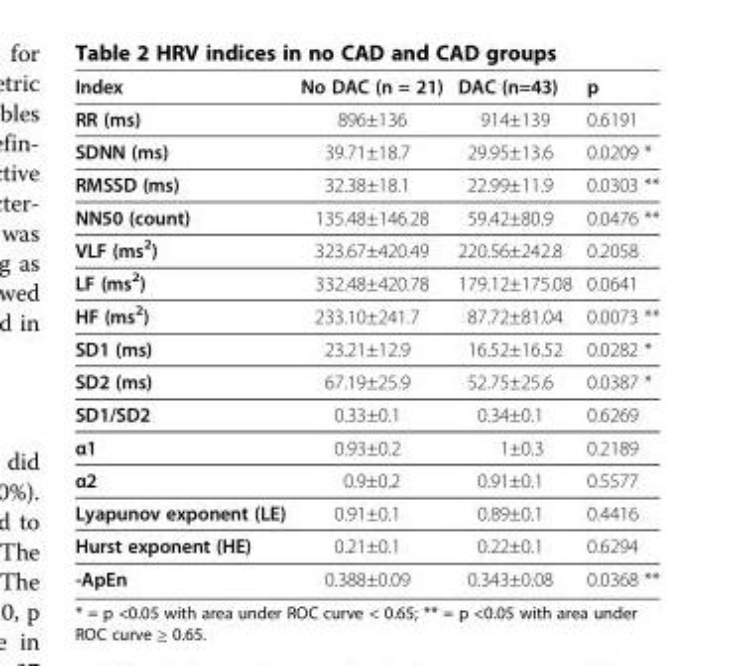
<table><thead><tr><td>Index</td><td>No DAC (n = 21)</td><td>DAC (n=43)</td><td>p</td></tr></thead><tbody><tr><td>RR (ms)</td><td>896±136</td><td>914±139</td><td>0.6191</td></tr><tr><td>SDNN (ms)</td><td>39.71±18.7</td><td>29.95±13.6</td><td>0.0209 *</td></tr><tr><td>RMSSD (ms)</td><td>32.38±18.1</td><td>22.99±11.9</td><td>0.0303 **</td></tr><tr><td>NN50 (count)</td><td>135.48±146.28</td><td>59.42±80.9</td><td>0.0476 **</td></tr><tr><td>VLF (ms<sup>2</sup>)</td><td>323.67±420.49</td><td>220.56±242.8</td><td>0.2058</td></tr><tr><td>LF (ms<sup>2</sup>)</td><td>332.48±420.78</td><td>179.12±175.08</td><td>0.0641</td></tr><tr><td>HF (ms<sup>2</sup>)</td><td>233.10±241.7</td><td>87.72±81.04</td><td>0.0073 **</td></tr><tr><td>SD1 (ms)</td><td>23.21±12.9</td><td>16.52±16.52</td><td>0.0282 *</td></tr><tr><td>SD2 (ms)</td><td>67.19±25.9</td><td>52.75±25.6</td><td>0.0387 *</td></tr><tr><td>SD1/SD2</td><td>0.33±0.1</td><td>0.34±0.1</td><td>0.6269</td></tr><tr><td>α1</td><td>0.93±0.2</td><td>1±0.3</td><td>0.2189</td></tr><tr><td>α2</td><td>0.9±0.2</td><td>0.91±0.1</td><td>0.5577</td></tr><tr><td>Lyapunov exponent (LE)</td><td>0.91±0.1</td><td>0.89±0.1</td><td>0.4416</td></tr><tr><td>Hurst exponent (HE)</td><td>0.21±0.1</td><td>0.22±0.1</td><td>0.6294</td></tr><tr><td>-ApEn</td><td>0.388±0.09</td><td>0.343±0.08</td><td>0.0368 **</td></tr></tbody></table>